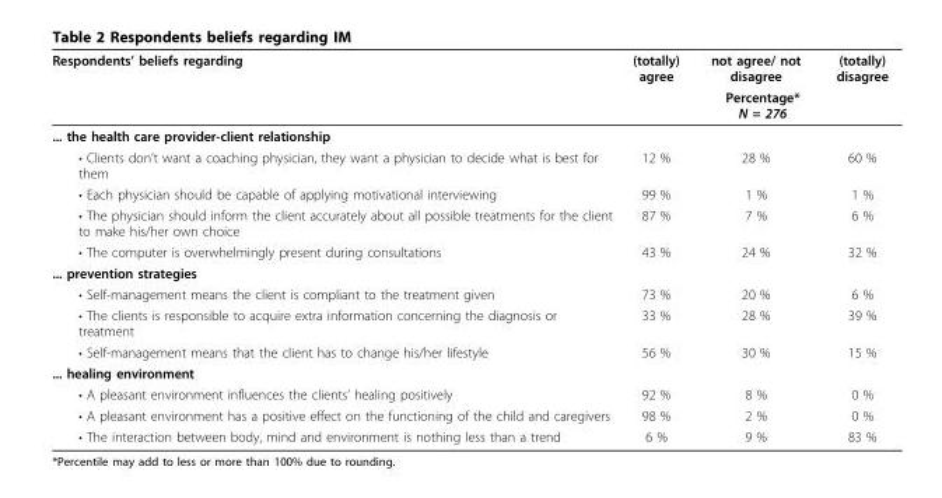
<table><thead><tr><td rowspan="2">Respondents’ beliefs regarding</td><td>(totally) agree</td><td>not agree/ not disagree</td><td>(totally) disagree</td></tr><tr><td colspan="3">Percentage* N = 276</td></tr></thead><tbody><tr><td colspan="4">... the health care provider-client relationship</td></tr><tr><td>• Clients don’t want a coaching physician, they want a physician to decide what is best for them</td><td>12 %</td><td>28 %</td><td>60 %</td></tr><tr><td>• Each physician should be capable of applying motivational interviewing</td><td>99 %</td><td>1 %</td><td>1 %</td></tr><tr><td>• The physician should inform the client accurately about all possible treatments for the client to make his/her own choice</td><td>87 %</td><td>7 %</td><td>6 %</td></tr><tr><td>• The computer is overwhelmingly present during consultations</td><td>43 %</td><td>24 %</td><td>32 %</td></tr><tr><td colspan="4">... prevention strategies</td></tr><tr><td>• Self-management means the client is compliant to the treatment given</td><td>73 %</td><td>20 %</td><td>6 %</td></tr><tr><td>• The clients is responsible to acquire extra information concerning the diagnosis or treatment</td><td>33 %</td><td>28 %</td><td>39 %</td></tr><tr><td>• Self-management means that the client has to change his/her lifestyle</td><td>56 %</td><td>30 %</td><td>15 %</td></tr><tr><td colspan="4">... healing environment</td></tr><tr><td>• A pleasant environment influences the clients’ healing positively</td><td>92 %</td><td>8 %</td><td>0 %</td></tr><tr><td>• A pleasant environment has a positive effect on the functioning of the child and caregivers</td><td>98 %</td><td>2 %</td><td>0 %</td></tr><tr><td>• The interaction between body, mind and environment is nothing less than a trend</td><td>6 %</td><td>9 %</td><td>83 %</td></tr></tbody></table>